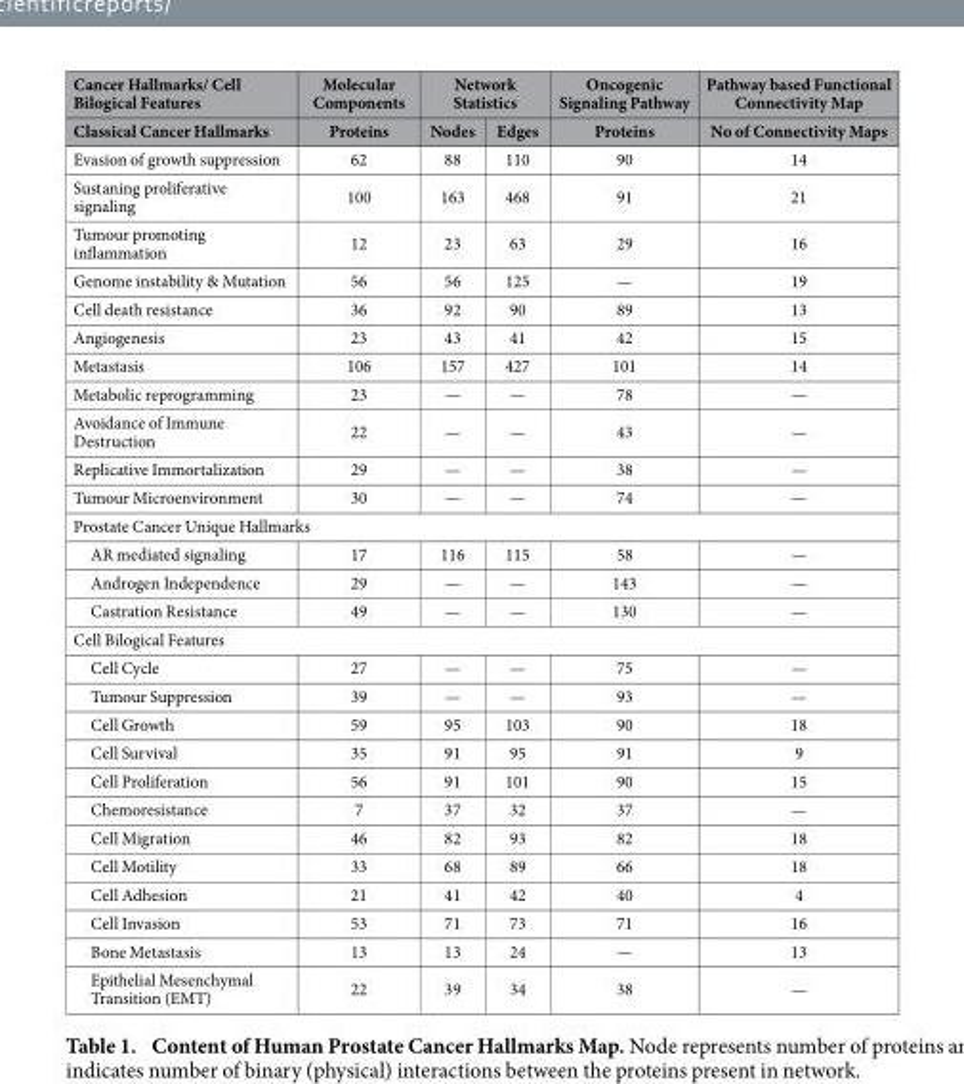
<table><thead><tr><td rowspan="2">Cancer Hallmarks/ Cell Bilogical Features Classical Cancer Hallmarks</td><td rowspan="2">Molecular Components Proteins</td><td colspan="2">Network Statistics</td><td rowspan="2">Oncogenic Signaling Pathway Proteins</td><td rowspan="2">Pathway based Functional Connectivity Map No of Connectivity Maps</td></tr><tr><td>Nodes</td><td>Edges</td></tr></thead><tbody><tr><td>Evasion of growth suppression</td><td>62</td><td>88</td><td>110</td><td>90</td><td>14</td></tr><tr><td>Sustaning proliferative signaling</td><td>100</td><td>163</td><td>468</td><td>91</td><td>21</td></tr><tr><td>Tumour promoting inflammation</td><td>12</td><td>23</td><td>63</td><td>29</td><td>16</td></tr><tr><td>Genome instability &amp; Mutation</td><td>56</td><td>56</td><td>125</td><td>—</td><td>19</td></tr><tr><td>Cell death resistance</td><td>36</td><td>92</td><td>90</td><td>89</td><td>13</td></tr><tr><td>Angiogenesis</td><td>23</td><td>43</td><td>41</td><td>42</td><td>15</td></tr><tr><td>Metastasis</td><td>106</td><td>157</td><td>427</td><td>101</td><td>14</td></tr><tr><td>Metabolic reprogramming</td><td>23</td><td>—</td><td>—</td><td>78</td><td>—</td></tr><tr><td>Avoidance of Immune Destruction</td><td>22</td><td>—</td><td>—</td><td>43</td><td>—</td></tr><tr><td>Replicative Immortalization</td><td>29</td><td>—</td><td>—</td><td>38</td><td>—</td></tr><tr><td>Tumour Microenvironment</td><td>30</td><td>—</td><td>—</td><td>74</td><td>—</td></tr><tr><td colspan="6">Prostate Cancer Unique Hallmarks</td></tr><tr><td>AR mediated signaling</td><td>17</td><td>116</td><td>115</td><td>58</td><td>—</td></tr><tr><td>Androgen Independence</td><td>29</td><td>—</td><td>—</td><td>143</td><td>—</td></tr><tr><td>Castration Resistance</td><td>49</td><td>—</td><td>—</td><td>130</td><td>—</td></tr><tr><td colspan="6">Cell Bilogical Features</td></tr><tr><td>Cell Cycle</td><td>27</td><td>—</td><td>—</td><td>75</td><td>—</td></tr><tr><td>Tumour Suppression</td><td>39</td><td>—</td><td>—</td><td>93</td><td>—</td></tr><tr><td>Cell Growth</td><td>59</td><td>95</td><td>103</td><td>90</td><td>18</td></tr><tr><td>Cell Survival</td><td>35</td><td>91</td><td>95</td><td>91</td><td>9</td></tr><tr><td>Cell Proliferation</td><td>56</td><td>91</td><td>101</td><td>90</td><td>15</td></tr><tr><td>Chemoresistance</td><td>7</td><td>37</td><td>32</td><td>37</td><td>—</td></tr><tr><td>Cell Migration</td><td>46</td><td>82</td><td>93</td><td>82</td><td>18</td></tr><tr><td>Cell Motility</td><td>33</td><td>68</td><td>89</td><td>66</td><td>18</td></tr><tr><td>Cell Adhesion</td><td>21</td><td>41</td><td>42</td><td>40</td><td>4</td></tr><tr><td>Cell Invasion</td><td>53</td><td>71</td><td>73</td><td>71</td><td>16</td></tr><tr><td>Bone Metastasis</td><td>13</td><td>13</td><td>24</td><td>—</td><td>13</td></tr><tr><td>Epithelial Mesenchymal Transition (EMT)</td><td>22</td><td>39</td><td>34</td><td>38</td><td>—</td></tr></tbody></table>